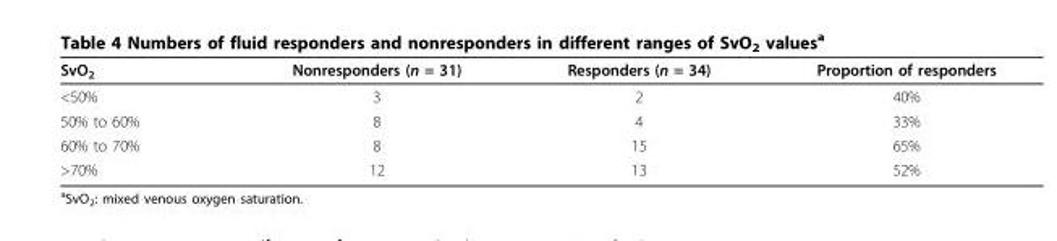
<table><thead><tr><td>SvO<sub>2</sub></td><td>Nonresponders (n = 31)</td><td>Responders (n = 34)</td><td>Proportion of responders</td></tr></thead><tbody><tr><td>&lt;50%</td><td>3</td><td>2</td><td>40%</td></tr><tr><td>50% to 60%</td><td>8</td><td>4</td><td>33%</td></tr><tr><td>60% to 70%</td><td>8</td><td>15</td><td>65%</td></tr><tr><td>&gt;70%</td><td>12</td><td>13</td><td>52%</td></tr></tbody></table>